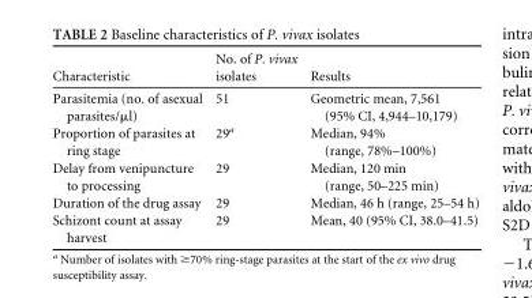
<table><thead><tr><td>Characteristic</td><td>No. of P. vivax isolates</td><td>Results</td></tr></thead><tbody><tr><td>Parasitemia (no. of asexual parasites/μl)</td><td>51</td><td>Geometric mean, 7,561 (95% CI, 4,944–10,179)</td></tr><tr><td>Proportion of parasites at ring stage</td><td>29<sup>a</sup></td><td>Median, 94% (range, 78%–100%)</td></tr><tr><td>Delay from venipuncture to processing</td><td>29</td><td>Median, 120 min (range, 50–225 min)</td></tr><tr><td>Duration of the drug assay</td><td>29</td><td>Median, 46 h (range, 25–54 h)</td></tr><tr><td>Schizont count at assay harvest</td><td>29</td><td>Mean, 40 (95% CI, 38.0–41.5)</td></tr></tbody></table>